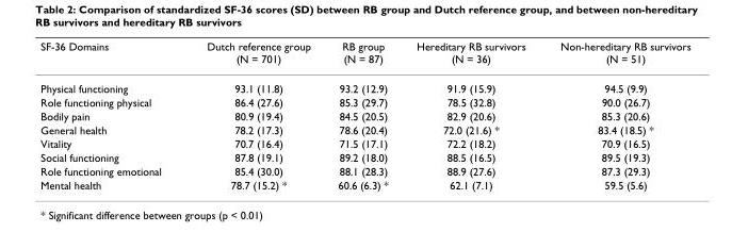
<table><thead><tr><td>SF-36 Domains</td><td>Dutch reference group (N = 701)</td><td>RB group (N = 87)</td><td>Hereditary RB survivors (N = 36)</td><td>Non-hereditary RB survivors (N = 51)</td></tr></thead><tbody><tr><td>Physical functioning</td><td>93.1 (11.8)</td><td>93.2 (12.9)</td><td>91.9 (15.9)</td><td>94.5 (9.9)</td></tr><tr><td>Role functioning physical</td><td>86.4 (27.6)</td><td>85.3 (29.7)</td><td>78.5 (32.8)</td><td>90.0 (26.7)</td></tr><tr><td>Bodily pain</td><td>80.9 (19.4)</td><td>84.5 (20.5)</td><td>82.9 (20.6)</td><td>85.3 (20.6)</td></tr><tr><td>General health</td><td>78.2 (17.3)</td><td>78.6 (20.4)</td><td>72.0 (21.6) *</td><td>83.4 (18.5) *</td></tr><tr><td>Vitality</td><td>70.7 (16.4)</td><td>71.5 (17.1)</td><td>72.2 (18.2)</td><td>70.9 (16.5)</td></tr><tr><td>Social functioning</td><td>87.8 (19.1)</td><td>89.2 (18.0)</td><td>88.5 (16.5)</td><td>89.5 (19.3)</td></tr><tr><td>Role functioning emotional</td><td>85.4 (30.0)</td><td>88.1 (28.3)</td><td>88.9 (27.6)</td><td>87.3 (29.3)</td></tr><tr><td>Mental health</td><td>78.7 (15.2) *</td><td>60.6 (6.3) *</td><td>62.1 (7.1)</td><td>59.5 (5.6)</td></tr></tbody></table>